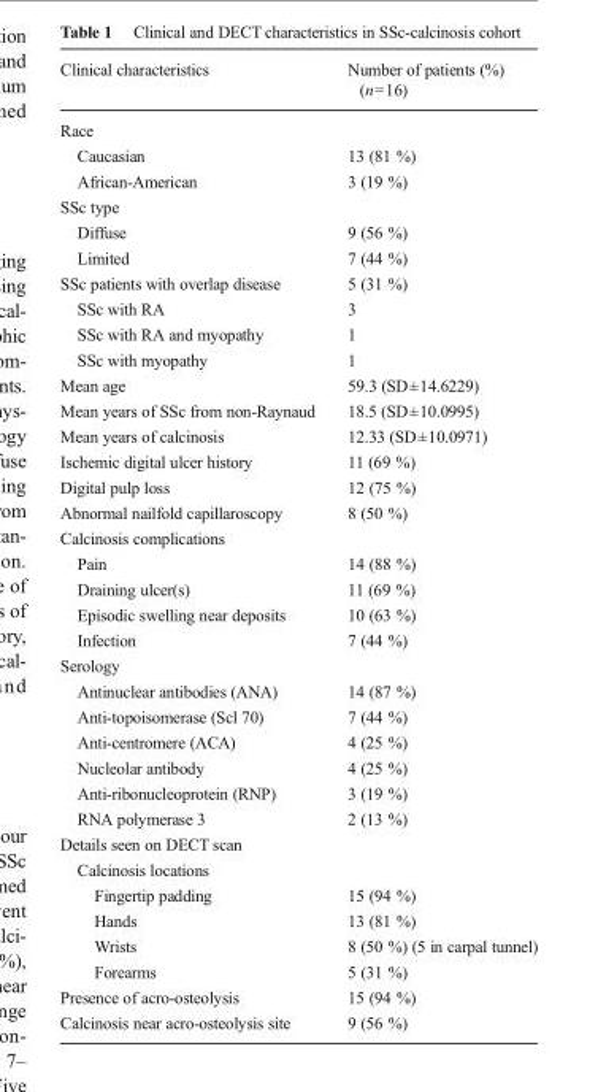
<table><thead><tr><td>Clinical characteristics</td><td>Number of patients (%) (n=16)</td></tr></thead><tbody><tr><td colspan="2">Race</td></tr><tr><td>Caucasian</td><td>13 (81 %)</td></tr><tr><td>African-American</td><td>3 (19 %)</td></tr><tr><td colspan="2">SSc type</td></tr><tr><td>Diffuse</td><td>9 (56 %)</td></tr><tr><td>Limited</td><td>7 (44 %)</td></tr><tr><td>SSc patients with overlap disease</td><td>5 (31 %)</td></tr><tr><td>SSc with RA</td><td>3</td></tr><tr><td>SSc with RA and myopathy</td><td>1</td></tr><tr><td>SSc with myopathy</td><td>1</td></tr><tr><td>Mean age</td><td>59.3 (SD±14.6229)</td></tr><tr><td>Mean years of SSc from non-Raynaud</td><td>18.5 (SD±10.0995)</td></tr><tr><td>Mean years of calcinosis</td><td>12.33 (SD±10.0971)</td></tr><tr><td>Ischemic digital ulcer history</td><td>11 (69 %)</td></tr><tr><td>Digital pulp loss</td><td>12 (75 %)</td></tr><tr><td>Abnormal nailfold capillaroscopy</td><td>8 (50 %)</td></tr><tr><td colspan="2">Calcinosis complications</td></tr><tr><td>Pain</td><td>14 (88 %)</td></tr><tr><td>Draining ulcer(s)</td><td>11 (69 %)</td></tr><tr><td>Episodic swelling near deposits</td><td>10 (63 %)</td></tr><tr><td>Infection</td><td>7 (44 %)</td></tr><tr><td colspan="2">Serology</td></tr><tr><td>Antinuclear antibodies (ANA)</td><td>14 (87 %)</td></tr><tr><td>Anti-topoisomerase (Scl 70)</td><td>7 (44 %)</td></tr><tr><td>Anti-centromere (ACA)</td><td>4 (25 %)</td></tr><tr><td>Nucleolar antibody</td><td>4 (25 %)</td></tr><tr><td>Anti-ribonucleoprotein (RNP)</td><td>3 (19 %)</td></tr><tr><td>RNA polymerase 3</td><td>2 (13 %)</td></tr><tr><td colspan="2">Details seen on DECT scan</td></tr><tr><td colspan="2">Calcinosis locations</td></tr><tr><td>Fingertip padding</td><td>15 (94 %)</td></tr><tr><td>Hands</td><td>13 (81 %)</td></tr><tr><td>Wrists</td><td>8 (50 %) (5 in carpal tunnel)</td></tr><tr><td>Forearms</td><td>5 (31 %)</td></tr><tr><td>Presence of acro-osteolysis</td><td>15 (94 %)</td></tr><tr><td>Calcinosis near acro-osteolysis site</td><td>9 (56 %)</td></tr></tbody></table>